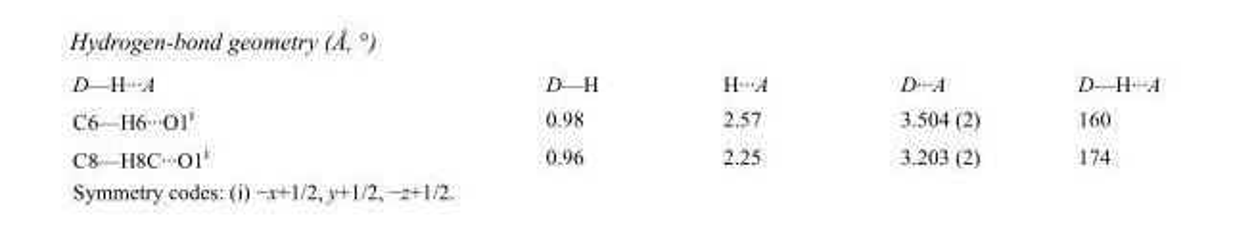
<table><tbody><tr><td>D—H···A</td><td>D—H</td><td>H···A</td><td>D···A</td><td>D—H···A</td></tr><tr><td>C6—H6···O1<sup>i</sup></td><td>0.98</td><td>2.57</td><td>3.504 (2)</td><td>160</td></tr><tr><td>C8—H8C···O1<sup>i</sup></td><td>0.96</td><td>2.25</td><td>3.203 (2)</td><td>174</td></tr></tbody></table>